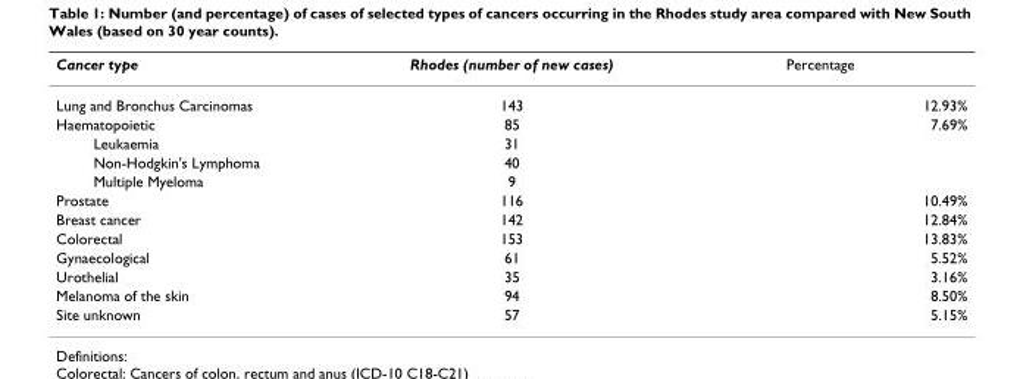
<table><thead><tr><td>Cancer type</td><td>Rhodes (number of new cases)</td><td>Percentage</td></tr></thead><tbody><tr><td>Lung and Bronchus Carcinomas</td><td>143</td><td>12.93%</td></tr><tr><td>Haematopoietic</td><td>85</td><td>7.69%</td></tr><tr><td>Leukaemia</td><td>31</td><td></td></tr><tr><td>Non-Hodgkin&#x27;s Lymphoma</td><td>40</td><td></td></tr><tr><td>Multiple Myeloma</td><td>9</td><td></td></tr><tr><td>Prostate</td><td>116</td><td>10.49%</td></tr><tr><td>Breast cancer</td><td>142</td><td>12.84%</td></tr><tr><td>Colorectal</td><td>153</td><td>13.83%</td></tr><tr><td>Gynaecological</td><td>61</td><td>5.52%</td></tr><tr><td>Urothelial</td><td>35</td><td>3.16%</td></tr><tr><td>Melanoma of the skin</td><td>94</td><td>8.50%</td></tr><tr><td>Site unknown</td><td>57</td><td>5.15%</td></tr></tbody></table>